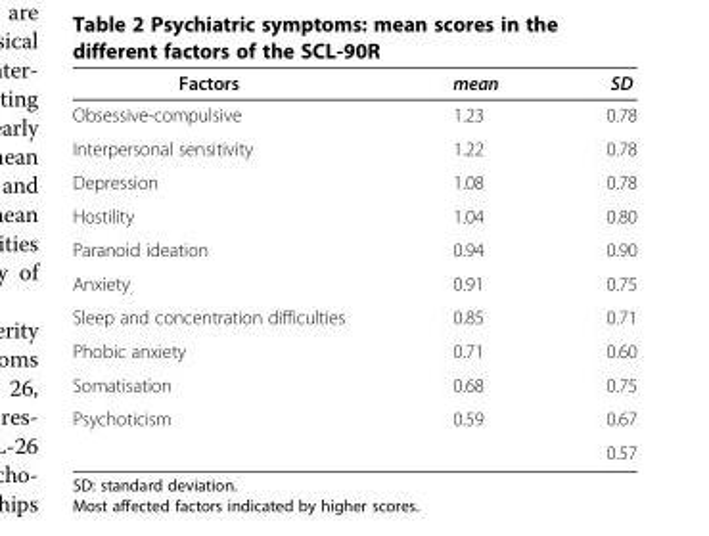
<table><thead><tr><td>Factors</td><td>mean</td><td>SD</td></tr></thead><tbody><tr><td>Obsessive-compulsive</td><td>1.23</td><td>0.78</td></tr><tr><td>Interpersonal sensitivity</td><td>1.22</td><td>0.78</td></tr><tr><td>Depression</td><td>1.08</td><td>0.78</td></tr><tr><td>Hostility</td><td>1.04</td><td>0.80</td></tr><tr><td>Paranoid ideation</td><td>0.94</td><td>0.90</td></tr><tr><td>Anxiety</td><td>0.91</td><td>0.75</td></tr><tr><td>Sleep and concentration difficulties</td><td>0.85</td><td>0.71</td></tr><tr><td>Phobic anxiety</td><td>0.71</td><td>0.60</td></tr><tr><td>Somatisation</td><td>0.68</td><td>0.75</td></tr><tr><td rowspan="2">Psychoticism</td><td>0.59</td><td>0.67</td></tr><tr><td></td><td>0.57</td></tr></tbody></table>